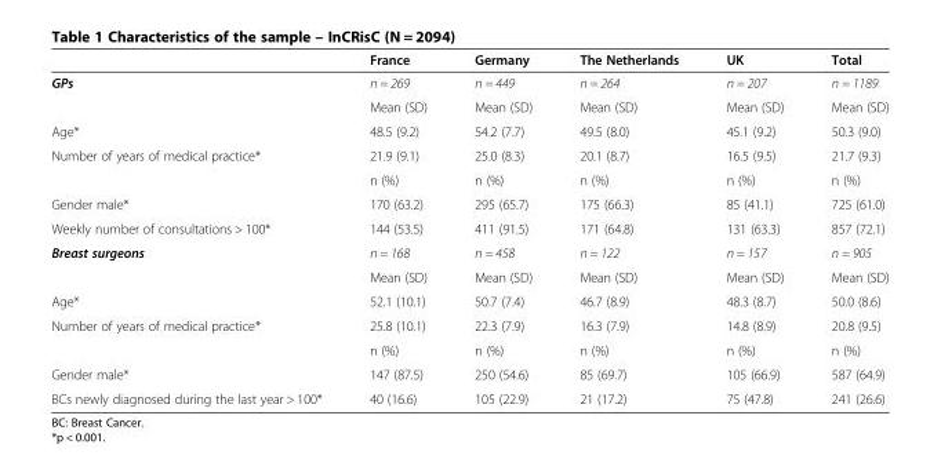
<table><thead><tr><td></td><td>France</td><td>Germany</td><td>The Netherlands</td><td>UK</td><td>Total</td></tr></thead><tbody><tr><td rowspan="2">GPs</td><td>n = 269</td><td>n = 449</td><td>n = 264</td><td>n = 207</td><td>n = 1189</td></tr><tr><td>Mean (SD)</td><td>Mean (SD)</td><td>Mean (SD)</td><td>Mean (SD)</td><td>Mean (SD)</td></tr><tr><td>Age*</td><td>48.5 (9.2)</td><td>54.2 (7.7)</td><td>49.5 (8.0)</td><td>45.1 (9.2)</td><td>50.3 (9.0)</td></tr><tr><td rowspan="2">Number of years of medical practice*</td><td>21.9 (9.1)</td><td>25.0 (8.3)</td><td>20.1 (8.7)</td><td>16.5 (9.5)</td><td>21.7 (9.3)</td></tr><tr><td>n (%)</td><td>n (%)</td><td>n (%)</td><td>n (%)</td><td>n (%)</td></tr><tr><td>Gender male*</td><td>170 (63.2)</td><td>295 (65.7)</td><td>175 (66.3)</td><td>85 (41.1)</td><td>725 (61.0)</td></tr><tr><td>Weekly number of consultations &gt; 100*</td><td>144 (53.5)</td><td>411 (91.5)</td><td>171 (64.8)</td><td>131 (63.3)</td><td>857 (72.1)</td></tr><tr><td rowspan="2">Breast surgeons</td><td>n = 168</td><td>n = 458</td><td>n = 122</td><td>n = 157</td><td>n = 905</td></tr><tr><td>Mean (SD)</td><td>Mean (SD)</td><td>Mean (SD)</td><td>Mean (SD)</td><td>Mean (SD)</td></tr><tr><td>Age*</td><td>52.1 (10.1)</td><td>50.7 (7.4)</td><td>46.7 (8.9)</td><td>48.3 (8.7)</td><td>50.0 (8.6)</td></tr><tr><td rowspan="2">Number of years of medical practice*</td><td>25.8 (10.1)</td><td>22.3 (7.9)</td><td>16.3 (7.9)</td><td>14.8 (8.9)</td><td>20.8 (9.5)</td></tr><tr><td>n (%)</td><td>n (%)</td><td>n (%)</td><td>n (%)</td><td>n (%)</td></tr><tr><td>Gender male*</td><td>147 (87.5)</td><td>250 (54.6)</td><td>85 (69.7)</td><td>105 (66.9)</td><td>587 (64.9)</td></tr><tr><td>BCs newly diagnosed during the last year &gt; 100*</td><td>40 (16.6)</td><td>105 (22.9)</td><td>21 (17.2)</td><td>75 (47.8)</td><td>241 (26.6)</td></tr></tbody></table>